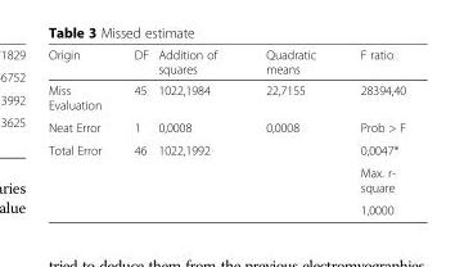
<table><thead><tr><td>Origin</td><td>DF</td><td>Addition of squares</td><td>Quadratic means</td><td>F ratio</td></tr></thead><tbody><tr><td>Miss Evaluation</td><td>45</td><td>1022,1984</td><td>22,7155</td><td>28394,40</td></tr><tr><td>Neat Error</td><td>1</td><td>0,0008</td><td>0,0008</td><td>Prob &gt; F</td></tr><tr><td rowspan="3">Total Error</td><td>46</td><td>1022,1992</td><td></td><td>0,0047*</td></tr><tr><td></td><td></td><td></td><td>Max. r- square</td></tr><tr><td></td><td></td><td></td><td>1,0000</td></tr></tbody></table>